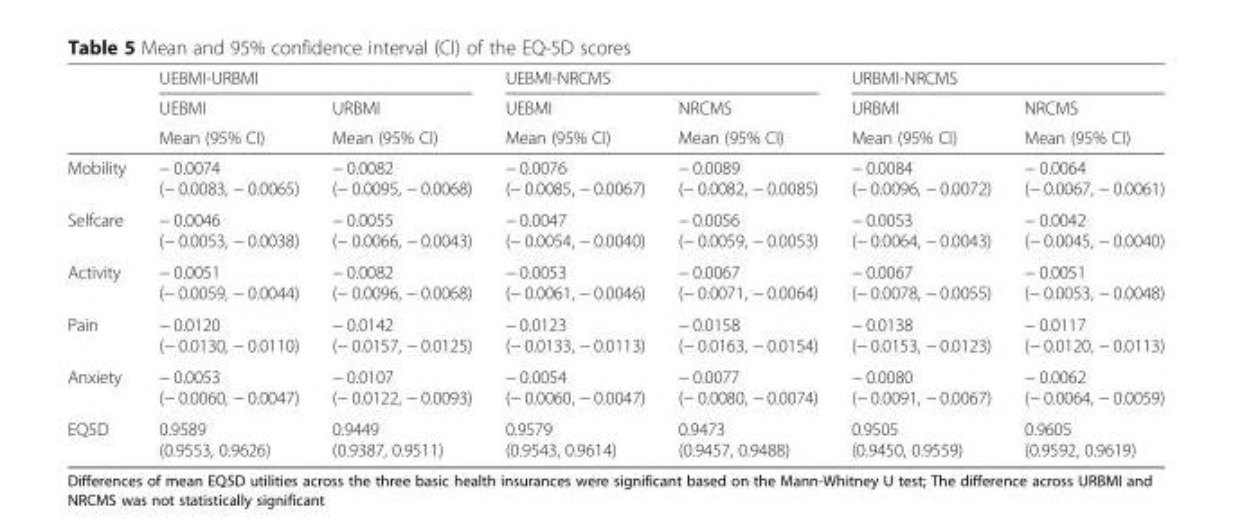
<table><thead><tr><td rowspan="3"></td><td colspan="2">UEBMI-URBMI</td><td colspan="2">UEBMI-NRCMS</td><td colspan="2">URBMI-NRCMS</td></tr><tr><td rowspan="2">UEBMI Mean (95% CI)</td><td rowspan="2">URBMI Mean (95% CI)</td><td rowspan="2">UEBMI Mean (95% CI)</td><td rowspan="2">NRCMS Mean (95% CI)</td><td rowspan="2">URBMI Mean (95% CI)</td><td rowspan="2">NRCMS Mean (95% CI)</td></tr><tr></tr></thead><tbody><tr><td>Mobility</td><td>− 0.0074 (− 0.0083, − 0.0065)</td><td>− 0.0082 (− 0.0095, − 0.0068)</td><td>− 0.0076 (− 0.0085, − 0.0067)</td><td>− 0.0089 (− 0.0082, − 0.0085)</td><td>− 0.0084 (− 0.0096, − 0.0072)</td><td>− 0.0064 (− 0.0067, − 0.0061)</td></tr><tr><td>Selfcare</td><td>− 0.0046 (− 0.0053, − 0.0038)</td><td>− 0.0055 (− 0.0066, − 0.0043)</td><td>− 0.0047 (− 0.0054, − 0.0040)</td><td>− 0.0056 (− 0.0059, − 0.0053)</td><td>− 0.0053 (− 0.0064, − 0.0043)</td><td>− 0.0042 (− 0.0045, − 0.0040)</td></tr><tr><td>Activity</td><td>− 0.0051 (− 0.0059, − 0.0044)</td><td>− 0.0082 (− 0.0096, − 0.0068)</td><td>− 0.0053 (− 0.0061, − 0.0046)</td><td>− 0.0067 (− 0.0071, − 0.0064)</td><td>− 0.0067 (− 0.0078, − 0.0055)</td><td>− 0.0051 (− 0.0053, − 0.0048)</td></tr><tr><td>Pain</td><td>− 0.0120 (− 0.0130, − 0.0110)</td><td>− 0.0142 (− 0.0157, − 0.0125)</td><td>− 0.0123 (− 0.0133, − 0.0113)</td><td>− 0.0158 (− 0.0163, − 0.0154)</td><td>− 0.0138 (− 0.0153, − 0.0123)</td><td>− 0.0117 (− 0.0120, − 0.0113)</td></tr><tr><td>Anxiety</td><td>− 0.0053 (− 0.0060, − 0.0047)</td><td>− 0.0107 (− 0.0122, − 0.0093)</td><td>− 0.0054 (− 0.0060, − 0.0047)</td><td>− 0.0077 (− 0.0080, − 0.0074)</td><td>− 0.0080 (− 0.0091, − 0.0067)</td><td>− 0.0062 (− 0.0064, − 0.0059)</td></tr><tr><td>EQ5D</td><td>0.9589 (0.9553, 0.9626)</td><td>0.9449 (0.9387, 0.9511)</td><td>0.9579 (0.9543, 0.9614)</td><td>0.9473 (0.9457, 0.9488)</td><td>0.9505 (0.9450, 0.9559)</td><td>0.9605 (0.9592, 0.9619)</td></tr></tbody></table>